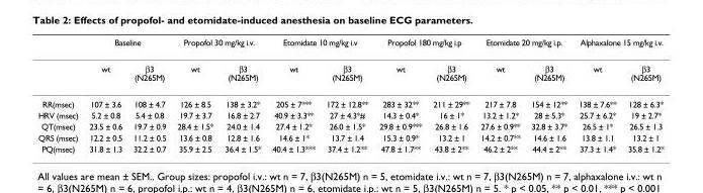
<table><thead><tr><td rowspan="2"></td><td colspan="2">Baseline</td><td colspan="2">Propofol 30 mg/kg i.v.</td><td colspan="2">Etomidate 10 mg/kg i.v</td><td colspan="2">Propofol 180 mg/kg i.p</td><td colspan="2">Etomidate 20 mg/kg i.p.</td><td colspan="2">Alphaxalone 15 mg/kg i.v.</td></tr><tr><td>wt</td><td>β3 (N265M)</td><td>wt</td><td>β3 (N265M)</td><td>wt</td><td>β3 (N265M)</td><td>wt</td><td>β3 (N265M)</td><td>wt</td><td>β3 (N265M)</td><td>wt</td><td>β3 (N265M)</td></tr></thead><tbody><tr><td>RR(msec)</td><td>107 ± 3.6</td><td>108 ± 4.7</td><td>126 ± 8.5</td><td>138 ± 3.2*</td><td>205 ± 7***</td><td>172 ± 12.8**</td><td>283 ± 32**</td><td>211 ± 29**</td><td>217 ± 7.8</td><td>154 ± 12**</td><td>138 ± 7.6**</td><td>128 ± 6.3*</td></tr><tr><td>HRV (msec)</td><td>5.2 ± 0.8</td><td>5.4 ± 0.8</td><td>19.7 ± 3.7</td><td>16.8 ± 2.7</td><td>40.9 ± 3.3**</td><td>27 ± 4.3*#</td><td>14.3 ± 0.4*</td><td>16 ± 1*</td><td>13.2 ± 1.2*</td><td>28 ± 5.3*</td><td>25.7 ± 6.2*</td><td>19 ± 2.7*</td></tr><tr><td>QT(msec)</td><td>23.5 ± 0.6</td><td>19.7 ± 0.9</td><td>28.4 ± 1.5*</td><td>24.0 ± 1.4</td><td>27.4 ± 1.2*</td><td>26.0 ± 1.5*</td><td>29.8 ± 0.9***</td><td>26.8 ± 1.6</td><td>27.6 ± 0.9**</td><td>32.8 ± 3.7*</td><td>26.5 ± 1*</td><td>26.5 ± 1.3</td></tr><tr><td>QRS (msec)</td><td>12.2 ± 0.5</td><td>11.2 ± 0.5</td><td>13.6 ± 0.8</td><td>12.8 ± 1.6</td><td>14.6 ± 1*</td><td>13.7 ± 1.4</td><td>15.3 ± 0.9*</td><td>13.2 ± 1</td><td>14.2 ± 0.7**</td><td>14.6 ± 1.6</td><td>13.8 ± 1.1</td><td>13.2 ± 1</td></tr><tr><td>PQ(msec)</td><td>31.8 ± 1.3</td><td>32.2 ± 0.7</td><td>35.9 ± 2.5</td><td>36.4 ± 1.5*</td><td>40.4 ± 1.3***</td><td>37.4 ± 1.2**</td><td>47.8 ± 1.7**</td><td>43.8 ± 2**</td><td>46.2 ± 2**</td><td>44.4 ± 2**</td><td>37.3 ± 1.4*</td><td>35.8 ± 1.2*</td></tr></tbody></table>